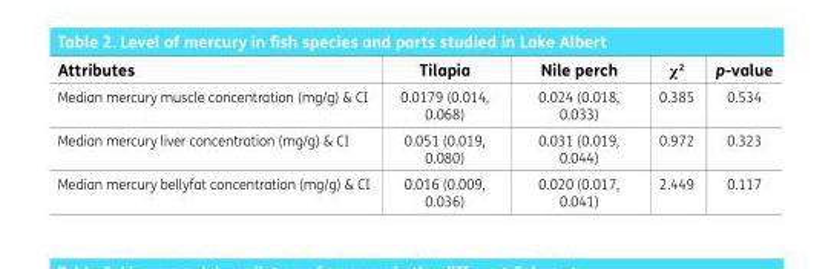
<table><thead><tr><td>Attributes</td><td>Tilapia</td><td>Nile perch</td><td>χ<sup>2</sup></td><td>p-value</td></tr></thead><tbody><tr><td>Median mercury muscle concentration (mg/g) &amp; CI</td><td>0.0179 (0.014, 0.068)</td><td>0.024 (0.018, 0.033)</td><td>0.385</td><td>0.534</td></tr><tr><td>Median mercury liver concentration (mg/g) &amp; CI</td><td>0.051 (0.019, 0.080)</td><td>0.031 (0.019, 0.044)</td><td>0.972</td><td>0.323</td></tr><tr><td>Median mercury bellyfat concentration (mg/g) &amp; CI</td><td>0.016 (0.009, 0.036)</td><td>0.020 (0.017, 0.041)</td><td>2.449</td><td>0.117</td></tr></tbody></table>